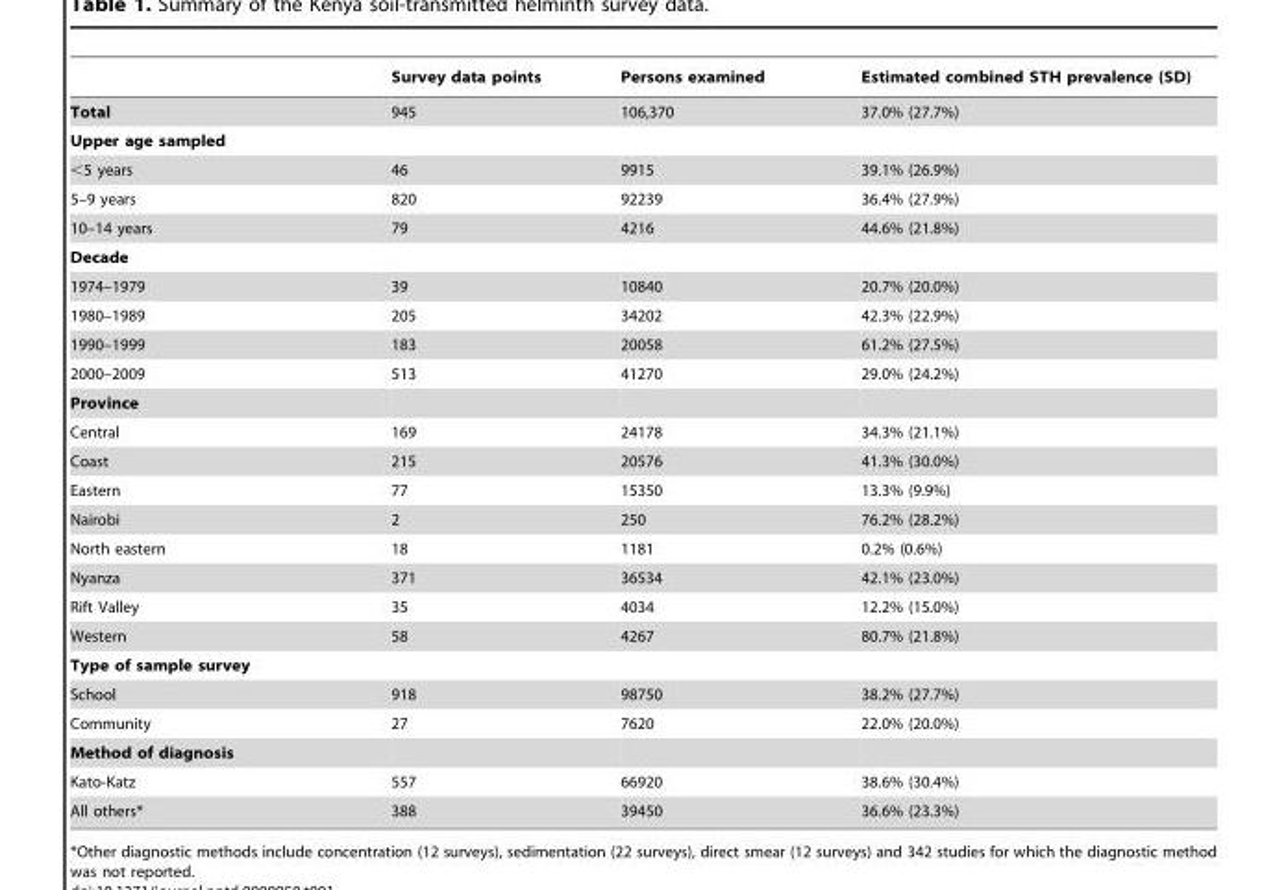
<table><thead><tr><td></td><td>Survey data points</td><td>Persons examined</td><td>Estimated combined STH prevalence (SD)</td></tr></thead><tbody><tr><td>Total</td><td>945</td><td>106,370</td><td>37.0% (27.7%)</td></tr><tr><td colspan="4">Upper age sampled</td></tr><tr><td>&lt;5 years</td><td>46</td><td>9915</td><td>39.1% (26.9%)</td></tr><tr><td>5–9 years</td><td>820</td><td>92239</td><td>36.4% (27.9%)</td></tr><tr><td>10–14 years</td><td>79</td><td>4216</td><td>44.6% (21.8%)</td></tr><tr><td colspan="4">Decade</td></tr><tr><td>1974–1979</td><td>39</td><td>10840</td><td>20.7% (20.0%)</td></tr><tr><td>1980–1989</td><td>205</td><td>34202</td><td>42.3% (22.9%)</td></tr><tr><td>1990–1999</td><td>183</td><td>20058</td><td>61.2% (27.5%)</td></tr><tr><td>2000–2009</td><td>513</td><td>41270</td><td>29.0% (24.2%)</td></tr><tr><td colspan="4">Province</td></tr><tr><td>Central</td><td>169</td><td>24178</td><td>34.3% (21.1%)</td></tr><tr><td>Coast</td><td>215</td><td>20576</td><td>41.3% (30.0%)</td></tr><tr><td>Eastern</td><td>77</td><td>15350</td><td>13.3% (9.9%)</td></tr><tr><td>Nairobi</td><td>2</td><td>250</td><td>76.2% (28.2%)</td></tr><tr><td>North eastern</td><td>18</td><td>1181</td><td>0.2% (0.6%)</td></tr><tr><td>Nyanza</td><td>371</td><td>36534</td><td>42.1% (23.0%)</td></tr><tr><td>Rift Valley</td><td>35</td><td>4034</td><td>12.2% (15.0%)</td></tr><tr><td>Western</td><td>58</td><td>4267</td><td>80.7% (21.8%)</td></tr><tr><td colspan="4">Type of sample survey</td></tr><tr><td>School</td><td>918</td><td>98750</td><td>38.2% (27.7%)</td></tr><tr><td>Community</td><td>27</td><td>7620</td><td>22.0% (20.0%)</td></tr><tr><td colspan="4">Method of diagnosis</td></tr><tr><td>Kato-Katz</td><td>557</td><td>66920</td><td>38.6% (30.4%)</td></tr><tr><td>All others*</td><td>388</td><td>39450</td><td>36.6% (23.3%)</td></tr></tbody></table>